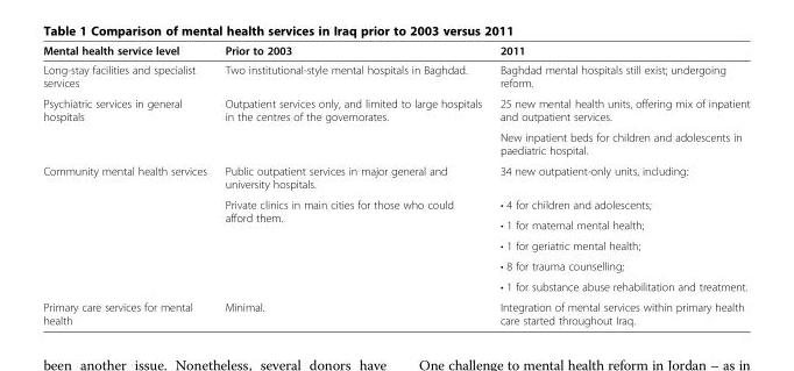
<table><thead><tr><td>Mental health service level</td><td>Prior to 2003</td><td>2011</td></tr></thead><tbody><tr><td>Long-stay facilities and specialist services</td><td>Two institutional-style mental hospitals in Baghdad.</td><td>Baghdad mental hospitals still exist; undergoing reform.</td></tr><tr><td rowspan="2">Psychiatric services in general hospitals</td><td>Outpatient services only, and limited to large hospitals in the centres of the governorates.</td><td>25 new mental health units, offering mix of inpatient and outpatient services.</td></tr><tr><td></td><td>New inpatient beds for children and adolescents in paediatric hospital.</td></tr><tr><td rowspan="6">Community mental health services</td><td>Public outpatient services in major general and university hospitals.</td><td>34 new outpatient-only units, including:</td></tr><tr><td rowspan="5">Private clinics in main cities for those who could afford them.</td><td>• 4 for children and adolescents;</td></tr><tr><td>• 1 for maternal mental health;</td></tr><tr><td>• 1 for geriatric mental health;</td></tr><tr><td>• 8 for trauma counselling;</td></tr><tr><td>• 1 for substance abuse rehabilitation and treatment.</td></tr><tr><td>Primary care services for mental health</td><td>Minimal.</td><td>Integration of mental services within primary health care started throughout Iraq.</td></tr></tbody></table>